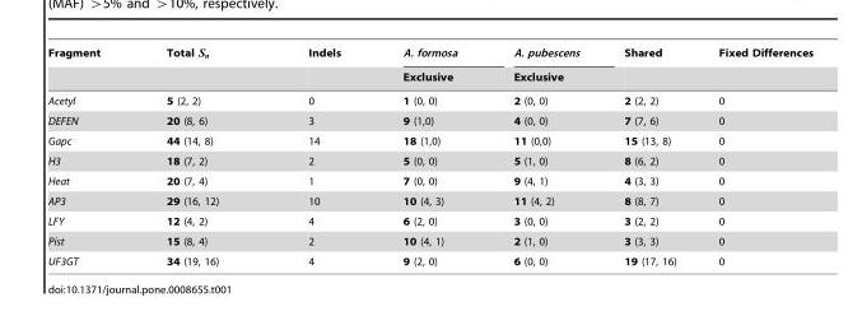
<table><thead><tr><td rowspan="2">Fragment</td><td rowspan="2">Total Sn</td><td rowspan="2">Indels</td><td rowspan="2">A. formosa Exclusive</td><td rowspan="2">A. pubescens Exclusive</td><td rowspan="2">Shared</td><td rowspan="2">Fixed Differences</td></tr><tr></tr></thead><tbody><tr><td>Acetyl</td><td>5 (2, 2)</td><td>0</td><td>1 (0, 0)</td><td>2 (0, 0)</td><td>2 (2, 2)</td><td>0</td></tr><tr><td>DEFEN</td><td>20 (8, 6)</td><td>3</td><td>9 (1,0)</td><td>4 (0, 0)</td><td>7 (7, 6)</td><td>0</td></tr><tr><td>Gapc</td><td>44 (14, 8)</td><td>14</td><td>18 (1,0)</td><td>11 (0,0)</td><td>15 (13, 8)</td><td>0</td></tr><tr><td>H3</td><td>18 (7, 2)</td><td>2</td><td>5 (0, 0)</td><td>5 (1, 0)</td><td>8 (6, 2)</td><td>0</td></tr><tr><td>Heat</td><td>20 (7, 4)</td><td>1</td><td>7 (0, 0)</td><td>9 (4, 1)</td><td>4 (3, 3)</td><td>0</td></tr><tr><td>AP3</td><td>29 (16, 12)</td><td>10</td><td>10 (4, 3)</td><td>11 (4, 2)</td><td>8 (8, 7)</td><td>0</td></tr><tr><td>LFY</td><td>12 (4, 2)</td><td>4</td><td>6 (2, 0)</td><td>3 (0, 0)</td><td>3 (2, 2)</td><td>0</td></tr><tr><td>Pist</td><td>15 (8, 4)</td><td>2</td><td>10 (4, 1)</td><td>2 (1, 0)</td><td>3 (3, 3)</td><td>0</td></tr><tr><td>UF3GT</td><td>34 (19, 16)</td><td>4</td><td>9 (2, 0)</td><td>6 (0, 0)</td><td>19 (17, 16)</td><td>0</td></tr></tbody></table>